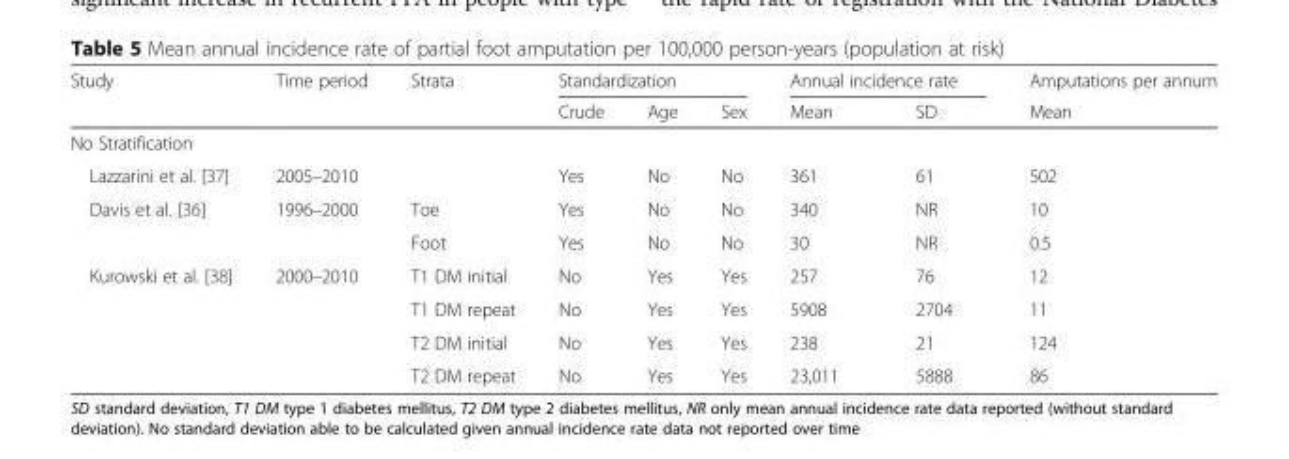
<table><thead><tr><td rowspan="2">Study</td><td rowspan="2">Time period</td><td rowspan="2">Strata</td><td colspan="3">Standardization</td><td colspan="2">Annual incidence rate</td><td rowspan="2">Amputations per annum Mean</td></tr><tr><td>Crude</td><td>Age</td><td>Sex</td><td>Mean</td><td>SD</td></tr></thead><tbody><tr><td colspan="9">No Stratification</td></tr><tr><td>Lazzarini et al. [37]</td><td>2005–2010</td><td></td><td>Yes</td><td>No</td><td>No</td><td>361</td><td>61</td><td>502</td></tr><tr><td rowspan="2">Davis et al. [36]</td><td>1996–2000</td><td>Toe</td><td>Yes</td><td>No</td><td>No</td><td>340</td><td>NR</td><td>10</td></tr><tr><td></td><td>Foot</td><td>Yes</td><td>No</td><td>No</td><td>30</td><td>NR</td><td>0.5</td></tr><tr><td rowspan="4">Kurowski et al. [38]</td><td>2000–2010</td><td>T1 DM initial</td><td>No</td><td>Yes</td><td>Yes</td><td>257</td><td>76</td><td>12</td></tr><tr><td></td><td>T1 DM repeat</td><td>No</td><td>Yes</td><td>Yes</td><td>5908</td><td>2704</td><td>11</td></tr><tr><td></td><td>T2 DM initial</td><td>No</td><td>Yes</td><td>Yes</td><td>238</td><td>21</td><td>124</td></tr><tr><td></td><td>T2 DM repeat</td><td>No</td><td>Yes</td><td>Yes</td><td>23,011</td><td>5888</td><td>86</td></tr></tbody></table>